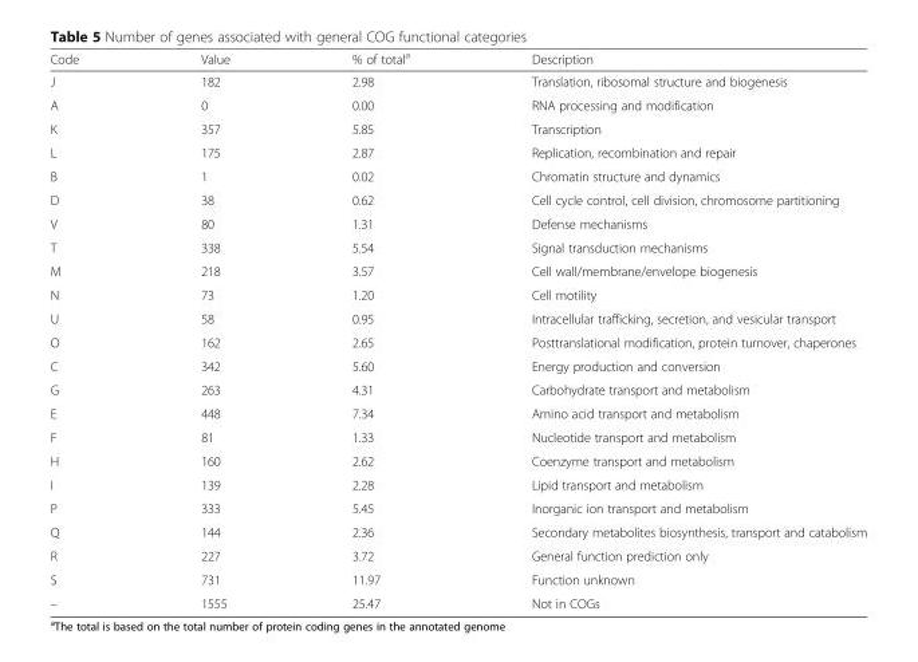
<table><thead><tr><td>Code</td><td>Value</td><td>% of total<sup>a</sup></td><td>Description</td></tr></thead><tbody><tr><td>J</td><td>182</td><td>2.98</td><td>Translation, ribosomal structure and biogenesis</td></tr><tr><td>A</td><td>0</td><td>0.00</td><td>RNA processing and modification</td></tr><tr><td>K</td><td>357</td><td>5.85</td><td>Transcription</td></tr><tr><td>L</td><td>175</td><td>2.87</td><td>Replication, recombination and repair</td></tr><tr><td>B</td><td>1</td><td>0.02</td><td>Chromatin structure and dynamics</td></tr><tr><td>D</td><td>38</td><td>0.62</td><td>Cell cycle control, cell division, chromosome partitioning</td></tr><tr><td>V</td><td>80</td><td>1.31</td><td>Defense mechanisms</td></tr><tr><td>T</td><td>338</td><td>5.54</td><td>Signal transduction mechanisms</td></tr><tr><td>M</td><td>218</td><td>3.57</td><td>Cell wall/membrane/envelope biogenesis</td></tr><tr><td>N</td><td>73</td><td>1.20</td><td>Cell motility</td></tr><tr><td>U</td><td>58</td><td>0.95</td><td>Intracellular trafficking, secretion, and vesicular transport</td></tr><tr><td>O</td><td>162</td><td>2.65</td><td>Posttranslational modification, protein turnover, chaperones</td></tr><tr><td>C</td><td>342</td><td>5.60</td><td>Energy production and conversion</td></tr><tr><td>G</td><td>263</td><td>4.31</td><td>Carbohydrate transport and metabolism</td></tr><tr><td>E</td><td>448</td><td>7.34</td><td>Amino acid transport and metabolism</td></tr><tr><td>F</td><td>81</td><td>1.33</td><td>Nucleotide transport and metabolism</td></tr><tr><td>H</td><td>160</td><td>2.62</td><td>Coenzyme transport and metabolism</td></tr><tr><td>I</td><td>139</td><td>2.28</td><td>Lipid transport and metabolism</td></tr><tr><td>P</td><td>333</td><td>5.45</td><td>Inorganic ion transport and metabolism</td></tr><tr><td>Q</td><td>144</td><td>2.36</td><td>Secondary metabolites biosynthesis, transport and catabolism</td></tr><tr><td>R</td><td>227</td><td>3.72</td><td>General function prediction only</td></tr><tr><td>S</td><td>731</td><td>11.97</td><td>Function unknown</td></tr><tr><td>–</td><td>1555</td><td>25.47</td><td>Not in COGs</td></tr></tbody></table>